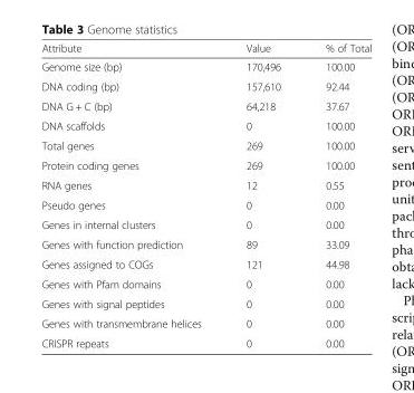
<table><thead><tr><td>Attribute</td><td>Value</td><td>% of Total</td></tr></thead><tbody><tr><td>Genome size (bp)</td><td>170,496</td><td>100.00</td></tr><tr><td>DNA coding (bp)</td><td>157,610</td><td>92.44</td></tr><tr><td>DNA G + C (bp)</td><td>64,218</td><td>37.67</td></tr><tr><td>DNA scaffolds</td><td>0</td><td>100.00</td></tr><tr><td>Total genes</td><td>269</td><td>100.00</td></tr><tr><td>Protein coding genes</td><td>269</td><td>100.00</td></tr><tr><td>RNA genes</td><td>12</td><td>0.55</td></tr><tr><td>Pseudo genes</td><td>0</td><td>0.00</td></tr><tr><td>Genes in internal clusters</td><td>0</td><td>0.00</td></tr><tr><td>Genes with function prediction</td><td>89</td><td>33.09</td></tr><tr><td>Genes assigned to COGs</td><td>121</td><td>44.98</td></tr><tr><td>Genes with Pfam domains</td><td>0</td><td>0.00</td></tr><tr><td>Genes with signal peptides</td><td>0</td><td>0.00</td></tr><tr><td>Genes with transmembrane helices</td><td>0</td><td>0.00</td></tr><tr><td>CRISPR repeats</td><td>0</td><td>0.00</td></tr></tbody></table>